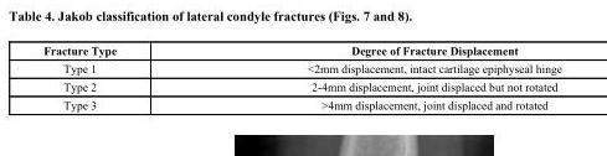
<table><thead><tr><td>Fracture Type</td><td>Degree of Fracture Displacement</td></tr></thead><tbody><tr><td>Type 1</td><td>&lt;2mm displacement, intact cartilage epiphyseal hinge</td></tr><tr><td>Type 2</td><td>2-4mm displacement, joint displaced but not rotated</td></tr><tr><td>Type 3</td><td>&gt;4mm displacement, joint displaced and rotated</td></tr></tbody></table>